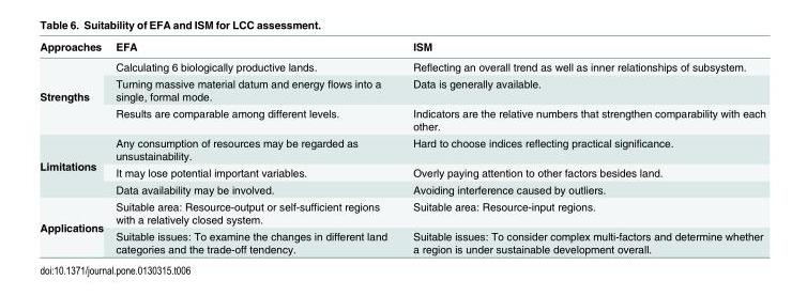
<table><thead><tr><td>Approaches</td><td>EFA</td><td>ISM</td></tr></thead><tbody><tr><td rowspan="3">Strengths</td><td>Calculating 6 biologically productive lands.</td><td>Reflecting an overall trend as well as inner relationships of subsystem.</td></tr><tr><td>Turning massive material datum and energy flows into a single, formal mode.</td><td>Data is generally available.</td></tr><tr><td>Results are comparable among different levels.</td><td>Indicators are the relative numbers that strengthen comparability with each other.</td></tr><tr><td rowspan="3">Limitations</td><td>Any consumption of resources may be regarded as unsustainability.</td><td>Hard to choose indices reflecting practical significance.</td></tr><tr><td>It may lose potential important variables.</td><td>Overly paying attention to other factors besides land.</td></tr><tr><td>Data availability may be involved.</td><td>Avoiding interference caused by outliers.</td></tr><tr><td rowspan="2">Applications</td><td>Suitable area: Resource-output or self-sufficient regions with a relatively closed system.</td><td>Suitable area: Resource-input regions.</td></tr><tr><td>Suitable issues: To examine the changes in different land categories and the trade-off tendency.</td><td>Suitable issues: To consider complex multi-factors and determine whether a region is under sustainable development overall.</td></tr></tbody></table>